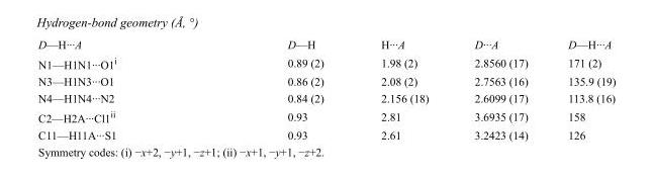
<table><tbody><tr><td>D—H···A</td><td>D—H</td><td>H···A</td><td>D···A</td><td>D—H···A</td></tr><tr><td>N1—H1N1···O1<sup>i</sup></td><td>0.89 (2)</td><td>1.98 (2)</td><td>2.8560 (17)</td><td>171 (2)</td></tr><tr><td>N3—H1N3···O1</td><td>0.86 (2)</td><td>2.08 (2)</td><td>2.7563 (16)</td><td>135.9 (19)</td></tr><tr><td>N4—H1N4···N2</td><td>0.84 (2)</td><td>2.156 (18)</td><td>2.6099 (17)</td><td>113.8 (16)</td></tr><tr><td>C2—H2A···Cl1<sup>ii</sup></td><td>0.93</td><td>2.81</td><td>3.6935 (17)</td><td>158</td></tr><tr><td>C11—H11A···S1</td><td>0.93</td><td>2.61</td><td>3.2423 (14)</td><td>126</td></tr></tbody></table>